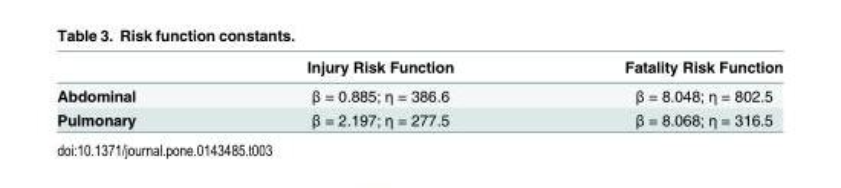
<table><thead><tr><td></td><td>Injury Risk Function</td><td>Fatality Risk Function</td></tr></thead><tbody><tr><td>Abdominal</td><td>β = 0.885; η = 386.6</td><td>β = 8.048; η = 802.5</td></tr><tr><td>Pulmonary</td><td>β = 2.197; η = 277.5</td><td>β = 8.068; η = 316.5</td></tr></tbody></table>